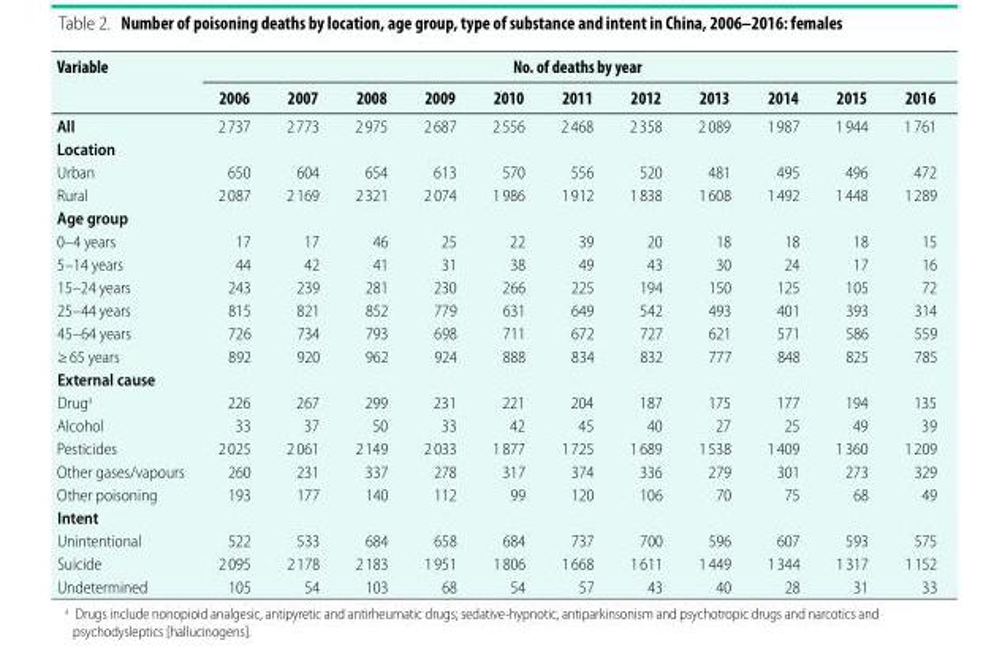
<table><thead><tr><td rowspan="2">Variable</td><td colspan="11">No. of deaths by year</td></tr><tr><td>2006</td><td>2007</td><td>2008</td><td>2009</td><td>2010</td><td>2011</td><td>2012</td><td>2013</td><td>2014</td><td>2015</td><td>2016</td></tr></thead><tbody><tr><td>All</td><td>2 737</td><td>2 773</td><td>2 975</td><td>2 687</td><td>2 556</td><td>2 468</td><td>2 358</td><td>2 089</td><td>1 987</td><td>1 944</td><td>1 761</td></tr><tr><td colspan="12">Location</td></tr><tr><td>Urban</td><td>650</td><td>604</td><td>654</td><td>613</td><td>570</td><td>556</td><td>520</td><td>481</td><td>495</td><td>496</td><td>472</td></tr><tr><td>Rural</td><td>2 087</td><td>2 169</td><td>2 321</td><td>2 074</td><td>1 986</td><td>1 912</td><td>1 838</td><td>1 608</td><td>1 492</td><td>1 448</td><td>1 289</td></tr><tr><td colspan="12">Age group</td></tr><tr><td>0–4 years</td><td>17</td><td>17</td><td>46</td><td>25</td><td>22</td><td>39</td><td>20</td><td>18</td><td>18</td><td>18</td><td>15</td></tr><tr><td>5–14 years</td><td>44</td><td>42</td><td>41</td><td>31</td><td>38</td><td>49</td><td>43</td><td>30</td><td>24</td><td>17</td><td>16</td></tr><tr><td>15–24 years</td><td>243</td><td>239</td><td>281</td><td>230</td><td>266</td><td>225</td><td>194</td><td>150</td><td>125</td><td>105</td><td>72</td></tr><tr><td>25–44 years</td><td>815</td><td>821</td><td>852</td><td>779</td><td>631</td><td>649</td><td>542</td><td>493</td><td>401</td><td>393</td><td>314</td></tr><tr><td>45–64 years</td><td>726</td><td>734</td><td>793</td><td>698</td><td>711</td><td>672</td><td>727</td><td>621</td><td>571</td><td>586</td><td>559</td></tr><tr><td>≥ 65 years</td><td>892</td><td>920</td><td>962</td><td>924</td><td>888</td><td>834</td><td>832</td><td>777</td><td>848</td><td>825</td><td>785</td></tr><tr><td colspan="12">External cause</td></tr><tr><td>Drug<sup>a</sup></td><td>226</td><td>267</td><td>299</td><td>231</td><td>221</td><td>204</td><td>187</td><td>175</td><td>177</td><td>194</td><td>135</td></tr><tr><td>Alcohol</td><td>33</td><td>37</td><td>50</td><td>33</td><td>42</td><td>45</td><td>40</td><td>27</td><td>25</td><td>49</td><td>39</td></tr><tr><td>Pesticides</td><td>2 025</td><td>2 061</td><td>2 149</td><td>2 033</td><td>1 877</td><td>1 725</td><td>1 689</td><td>1 538</td><td>1 409</td><td>1 360</td><td>1 209</td></tr><tr><td>Other gases/vapours</td><td>260</td><td>231</td><td>337</td><td>278</td><td>317</td><td>374</td><td>336</td><td>279</td><td>301</td><td>273</td><td>329</td></tr><tr><td>Other poisoning</td><td>193</td><td>177</td><td>140</td><td>112</td><td>99</td><td>120</td><td>106</td><td>70</td><td>75</td><td>68</td><td>49</td></tr><tr><td colspan="12">Intent</td></tr><tr><td>Unintentional</td><td>522</td><td>533</td><td>684</td><td>658</td><td>684</td><td>737</td><td>700</td><td>596</td><td>607</td><td>593</td><td>575</td></tr><tr><td>Suicide</td><td>2 095</td><td>2 178</td><td>2 183</td><td>1 951</td><td>1 806</td><td>1 668</td><td>1 611</td><td>1 449</td><td>1 344</td><td>1 317</td><td>1 152</td></tr><tr><td>Undetermined</td><td>105</td><td>54</td><td>103</td><td>68</td><td>54</td><td>57</td><td>43</td><td>40</td><td>28</td><td>31</td><td>33</td></tr></tbody></table>